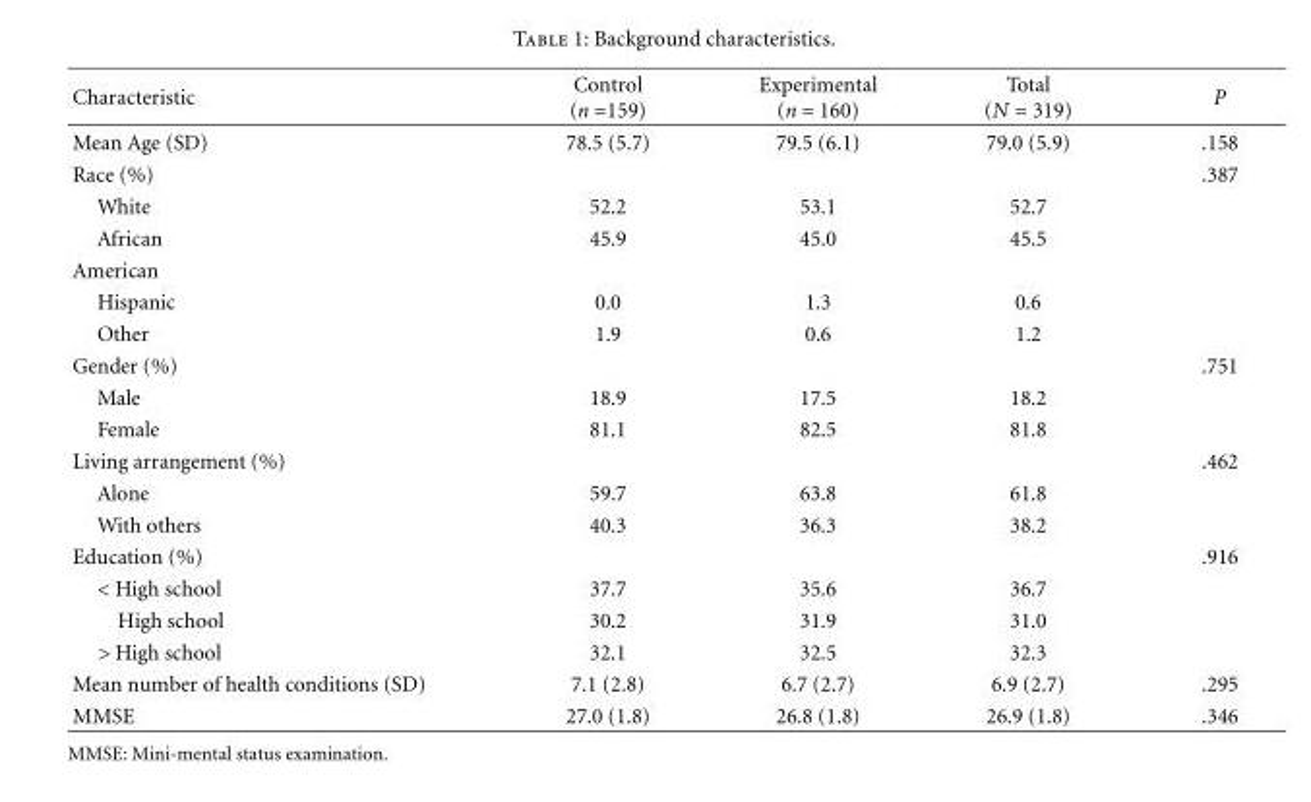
<table><thead><tr><td>Characteristic</td><td>Control (n =159)</td><td>Experimental (n = 160)</td><td>Total (N = 319)</td><td>P</td></tr></thead><tbody><tr><td>Mean Age (SD)</td><td>78.5 (5.7)</td><td>79.5 (6.1)</td><td>79.0 (5.9)</td><td>.158</td></tr><tr><td>Race (%)</td><td></td><td></td><td></td><td>.387</td></tr><tr><td>White</td><td>52.2</td><td>53.1</td><td>52.7</td><td></td></tr><tr><td>African</td><td>45.9</td><td>45.0</td><td>45.5</td><td></td></tr><tr><td colspan="5">American</td></tr><tr><td>Hispanic</td><td>0.0</td><td>1.3</td><td>0.6</td><td></td></tr><tr><td>Other</td><td>1.9</td><td>0.6</td><td>1.2</td><td></td></tr><tr><td>Gender (%)</td><td></td><td></td><td></td><td>.751</td></tr><tr><td>Male</td><td>18.9</td><td>17.5</td><td>18.2</td><td></td></tr><tr><td>Female</td><td>81.1</td><td>82.5</td><td>81.8</td><td></td></tr><tr><td>Living arrangement (%)</td><td></td><td></td><td></td><td>.462</td></tr><tr><td>Alone</td><td>59.7</td><td>63.8</td><td>61.8</td><td></td></tr><tr><td>With others</td><td>40.3</td><td>36.3</td><td>38.2</td><td></td></tr><tr><td>Education (%)</td><td></td><td></td><td></td><td>.916</td></tr><tr><td>&lt; High school</td><td>37.7</td><td>35.6</td><td>36.7</td><td></td></tr><tr><td>High school</td><td>30.2</td><td>31.9</td><td>31.0</td><td></td></tr><tr><td>&gt; High school</td><td>32.1</td><td>32.5</td><td>32.3</td><td></td></tr><tr><td>Mean number of health conditions (SD)</td><td>7.1 (2.8)</td><td>6.7 (2.7)</td><td>6.9 (2.7)</td><td>.295</td></tr><tr><td>MMSE</td><td>27.0 (1.8)</td><td>26.8 (1.8)</td><td>26.9 (1.8)</td><td>.346</td></tr></tbody></table>